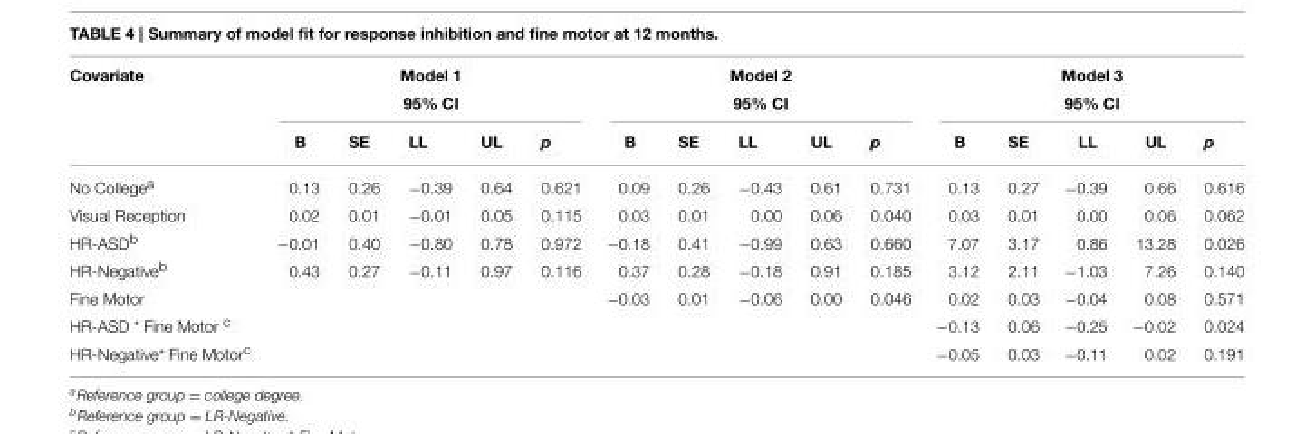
<table><thead><tr><td rowspan="2">Covariate</td><td colspan="5">Model 1 95% CI</td><td colspan="5">Model 2 95% CI</td><td colspan="5">Model 3 95% CI</td></tr><tr><td>B</td><td>SE</td><td>LL</td><td>UL</td><td>p</td><td>B</td><td>SE</td><td>LL</td><td>UL</td><td>p</td><td>B</td><td>SE</td><td>LL</td><td>UL</td><td>p</td></tr></thead><tbody><tr><td>No College<sup>a</sup></td><td>0.13</td><td>0.26</td><td>−0.39</td><td>0.64</td><td>0.621</td><td>0.09</td><td>0.26</td><td>−0.43</td><td>0.61</td><td>0.731</td><td>0.13</td><td>0.27</td><td>−0.39</td><td>0.66</td><td>0.616</td></tr><tr><td>Visual Reception</td><td>0.02</td><td>0.01</td><td>−0.01</td><td>0.05</td><td>0.115</td><td>0.03</td><td>0.01</td><td>0.00</td><td>0.06</td><td>0.040</td><td>0.03</td><td>0.01</td><td>0.00</td><td>0.06</td><td>0.062</td></tr><tr><td>HR-ASD<sup>b</sup></td><td>−0.01</td><td>0.40</td><td>−0.80</td><td>0.78</td><td>0.972</td><td>−0.18</td><td>0.41</td><td>−0.99</td><td>0.63</td><td>0.660</td><td>7.07</td><td>3.17</td><td>0.86</td><td>13.28</td><td>0.026</td></tr><tr><td>HR-Negative<sup>b</sup></td><td>0.43</td><td>0.27</td><td>−0.11</td><td>0.97</td><td>0.116</td><td>0.37</td><td>0.28</td><td>−0.18</td><td>0.91</td><td>0.185</td><td>3.12</td><td>2.11</td><td>−1.03</td><td>7.26</td><td>0.140</td></tr><tr><td>Fine Motor</td><td></td><td></td><td></td><td></td><td></td><td>−0.03</td><td>0.01</td><td>−0.06</td><td>0.00</td><td>0.046</td><td>0.02</td><td>0.03</td><td>−0.04</td><td>0.08</td><td>0.571</td></tr><tr><td>HR-ASD * Fine Motor <sup>c</sup></td><td></td><td></td><td></td><td></td><td></td><td></td><td></td><td></td><td></td><td></td><td>−0.13</td><td>0.06</td><td>−0.25</td><td>−0.02</td><td>0.024</td></tr><tr><td>HR-Negative* Fine Motor<sup>c</sup></td><td></td><td></td><td></td><td></td><td></td><td></td><td></td><td></td><td></td><td></td><td>−0.05</td><td>0.03</td><td>−0.11</td><td>0.02</td><td>0.191</td></tr></tbody></table>